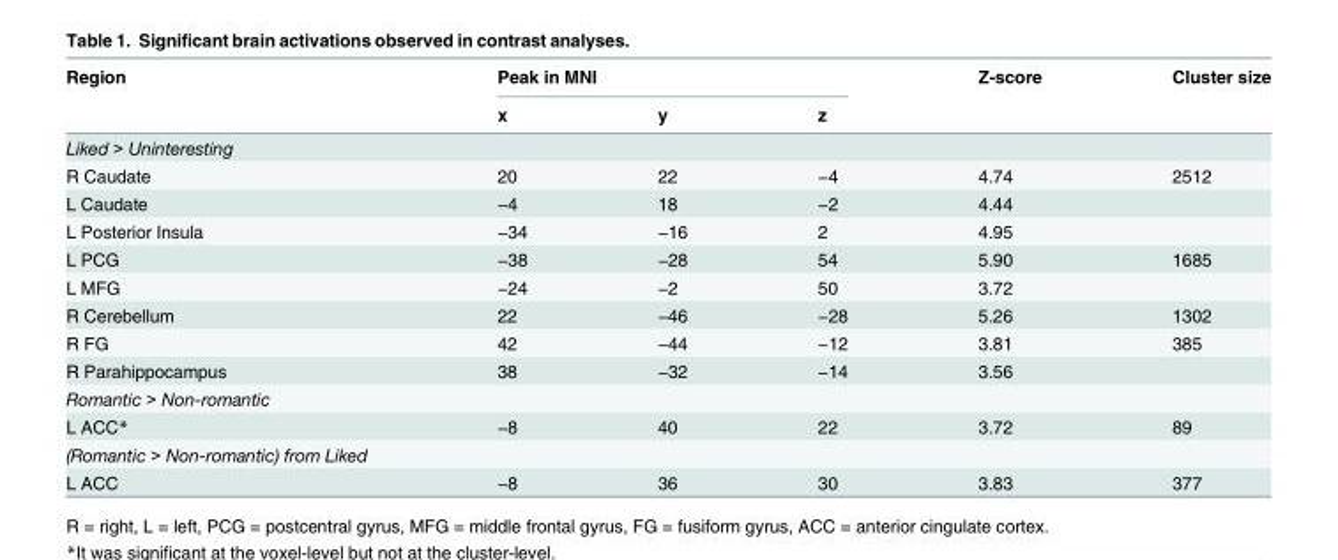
<table><thead><tr><td rowspan="2">Region</td><td colspan="3">Peak in MNI</td><td rowspan="2">Z-score</td><td rowspan="2">Cluster size</td></tr><tr><td>x</td><td>y</td><td>z</td></tr></thead><tbody><tr><td colspan="6">Liked &gt; Uninteresting</td></tr><tr><td>R Caudate</td><td>20</td><td>22</td><td>−4</td><td>4.74</td><td>2512</td></tr><tr><td>L Caudate</td><td>−4</td><td>18</td><td>−2</td><td>4.44</td><td></td></tr><tr><td>L Posterior Insula</td><td>−34</td><td>−16</td><td>2</td><td>4.95</td><td></td></tr><tr><td>L PCG</td><td>−38</td><td>−28</td><td>54</td><td>5.90</td><td>1685</td></tr><tr><td>L MFG</td><td>−24</td><td>−2</td><td>50</td><td>3.72</td><td></td></tr><tr><td>R Cerebellum</td><td>22</td><td>−46</td><td>−28</td><td>5.26</td><td>1302</td></tr><tr><td>R FG</td><td>42</td><td>−44</td><td>−12</td><td>3.81</td><td>385</td></tr><tr><td>R Parahippocampus</td><td>38</td><td>−32</td><td>−14</td><td>3.56</td><td></td></tr><tr><td colspan="6">Romantic &gt; Non-romantic</td></tr><tr><td>L ACC*</td><td>−8</td><td>40</td><td>22</td><td>3.72</td><td>89</td></tr><tr><td colspan="6">(Romantic &gt; Non-romantic) from Liked</td></tr><tr><td>L ACC</td><td>−8</td><td>36</td><td>30</td><td>3.83</td><td>377</td></tr></tbody></table>